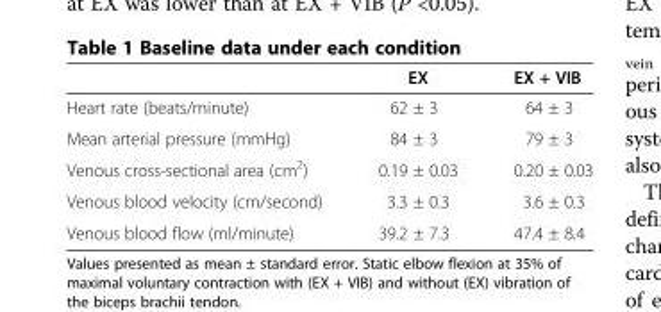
<table><thead><tr><td></td><td>EX</td><td>EX + VIB</td></tr></thead><tbody><tr><td>Heart rate (beats/minute)</td><td>62 ± 3</td><td>64 ± 3</td></tr><tr><td>Mean arterial pressure (mmHg)</td><td>84 ± 3</td><td>79 ± 3</td></tr><tr><td>Venous cross-sectional area (cm<sup>2</sup>)</td><td>0.19 ± 0.03</td><td>0.20 ± 0.03</td></tr><tr><td>Venous blood velocity (cm/second)</td><td>3.3 ± 0.3</td><td>3.6 ± 0.3</td></tr><tr><td>Venous blood flow (ml/minute)</td><td>39.2 ± 7.3</td><td>47.4 ± 8.4</td></tr></tbody></table>